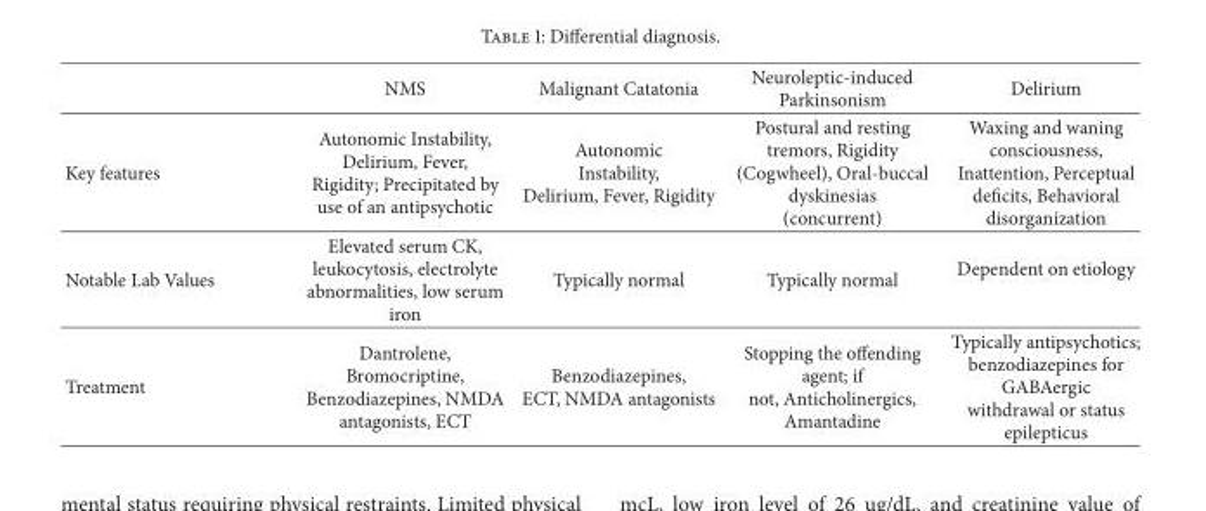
<table><thead><tr><td></td><td>NMS</td><td>Malignant Catatonia</td><td>Neuroleptic-induced Parkinsonism</td><td>Delirium</td></tr></thead><tbody><tr><td>Key features</td><td>Autonomic Instability, Delirium, Fever, Rigidity; Precipitated by use of an antipsychotic</td><td>Autonomic Instability, Delirium, Fever, Rigidity</td><td>Postural and resting tremors, Rigidity (Cogwheel), Oral-buccal dyskinesias (concurrent)</td><td>Waxing and waning consciousness, Inattention, Perceptual deficits, Behavioral disorganization</td></tr><tr><td>Notable Lab Values</td><td>Elevated serum CK, leukocytosis, electrolyte abnormalities, low serum iron</td><td>Typically normal</td><td>Typically normal</td><td>Dependent on etiology</td></tr><tr><td>Treatment</td><td>Dantrolene, Bromocriptine, Benzodiazepines, NMDA antagonists, ECT</td><td>Benzodiazepines, ECT, NMDA antagonists</td><td>Stopping the offending agent; if not, Anticholinergics, Amantadine</td><td>Typically antipsychotics; benzodiazepines for GABAergic withdrawal or status epilepticus</td></tr></tbody></table>